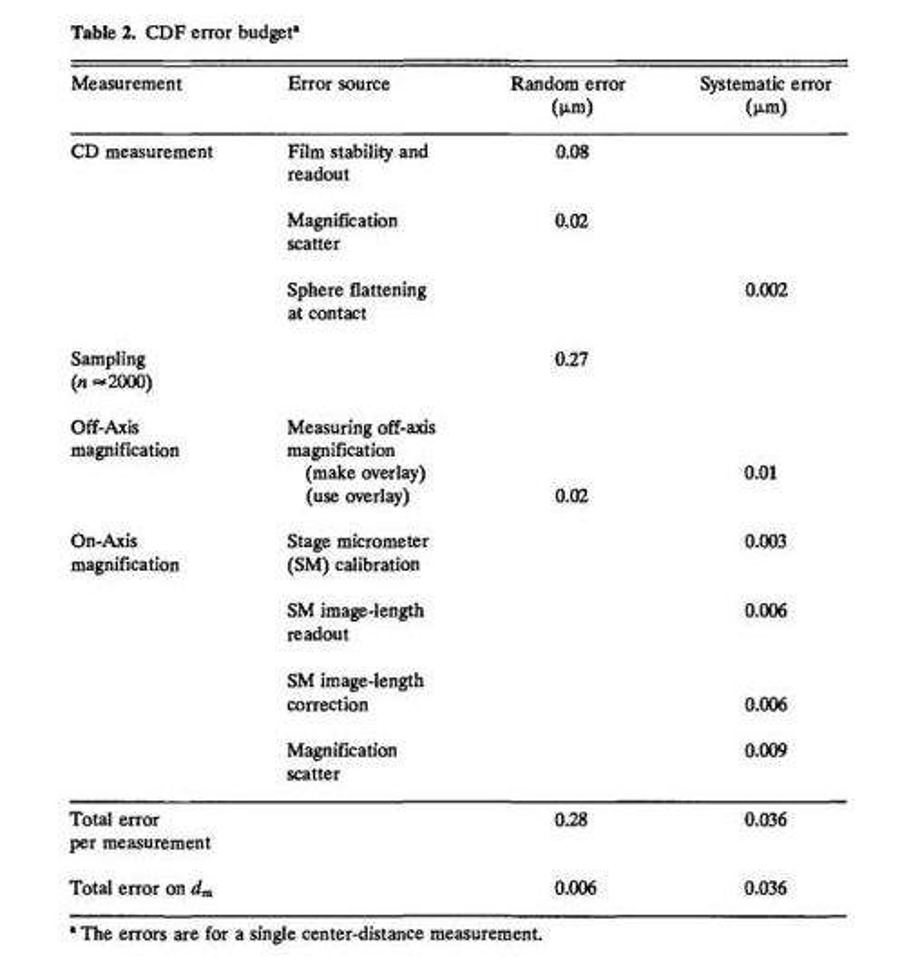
<table><thead><tr><td>Measurement</td><td>Error source</td><td>Random error (μm)</td><td>Systematic error (ji.m)</td></tr></thead><tbody><tr><td rowspan="3">CD measurement</td><td>Film stability and readout</td><td>0.08</td><td></td></tr><tr><td>Magnification scatter</td><td>0.02</td><td></td></tr><tr><td>Sphere flattening at contact</td><td></td><td>0.002</td></tr><tr><td>Sampling (n =.2000)</td><td></td><td>0.27</td><td></td></tr><tr><td>Off-Axis magnification</td><td>Measuring off-axis magnification (make overlay) (use overlay)</td><td>0.02</td><td>0.01</td></tr><tr><td rowspan="4">On-Axis magnification</td><td>Stage micrometer (SM) calibration</td><td></td><td>0.003</td></tr><tr><td>SM image-length readout</td><td></td><td>0.006</td></tr><tr><td>SM image-length correction</td><td></td><td>0.006</td></tr><tr><td>Magnification scatter</td><td></td><td>0.009</td></tr><tr><td>Total error per measurement</td><td></td><td>0.28</td><td>0.036</td></tr><tr><td>Total error on d<sub>m</sub></td><td></td><td>0.006</td><td>0.036</td></tr></tbody></table>